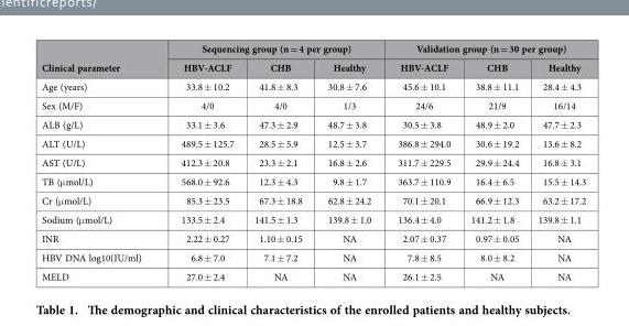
<table><thead><tr><td rowspan="2">Clinical parameter</td><td colspan="3">Sequencing group (n = 4 per group)</td><td colspan="3">Validation group (n = 30 per group)</td></tr><tr><td>HBV-ACLF</td><td>CHB</td><td>Healthy</td><td>HBV-ACLF</td><td>CHB</td><td>Healthy</td></tr></thead><tbody><tr><td>Age (years)</td><td>33.8 ± 10.2</td><td>41.8 ± 8.3</td><td>30.8 ± 7.6</td><td>45.6 ± 10.1</td><td>38.8 ± 11.1</td><td>28.4 ± 4.3</td></tr><tr><td>Sex (M/F)</td><td>4/0</td><td>4/0</td><td>1/3</td><td>24/6</td><td>21/9</td><td>16/14</td></tr><tr><td>ALB (g/L)</td><td>33.1 ± 3.6</td><td>47.3 ± 2.9</td><td>48.7 ± 3.8</td><td>30.5 ± 3.8</td><td>48.9 ± 2.0</td><td>47.7 ± 2.3</td></tr><tr><td>ALT (U/L)</td><td>489.5 ± 125.7</td><td>28.5 ± 5.9</td><td>12.5 ± 3.7</td><td>386.8 ± 294.0</td><td>30.6 ± 19.2</td><td>13.6 ± 8.2</td></tr><tr><td>AST (U/L)</td><td>412.3 ± 20.8</td><td>23.3 ± 2.1</td><td>16.8 ± 2.6</td><td>311.7 ± 229.5</td><td>29.9 ± 24.4</td><td>16.8 ± 3.1</td></tr><tr><td>TB (μ mol/L)</td><td>568.0 ± 92.6</td><td>12.3 ± 4.3</td><td>9.8 ± 1.7</td><td>363.7 ± 110.9</td><td>16.4 ± 6.5</td><td>15.5 ± 14.3</td></tr><tr><td>Cr (μ mol/L)</td><td>85.3 ± 23.5</td><td>67.3 ± 18.8</td><td>62.8 ± 24.2</td><td>70.1 ± 20.1</td><td>66.9 ± 12.3</td><td>63.2 ± 17.2</td></tr><tr><td>Sodium (μ mol/L)</td><td>133.5 ± 2.4</td><td>141.5 ± 1.3</td><td>139.8 ± 1.0</td><td>136.4 ± 4.0</td><td>141.2 ± 1.8</td><td>139.8 ± 1.1</td></tr><tr><td>INR</td><td>2.22 ± 0.27</td><td>1.10 ± 0.15</td><td>NA</td><td>2.07 ± 0.37</td><td>0.97 ± 0.05</td><td>NA</td></tr><tr><td>HBV DNA log10(IU/ml)</td><td>6.8 ± 7.0</td><td>7.1 ± 7.2</td><td>NA</td><td>7.8 ± 8.5</td><td>8.0 ± 8.2</td><td>NA</td></tr><tr><td>MELD</td><td>27.0 ± 2.4</td><td>NA</td><td>NA</td><td>26.1 ± 2.5</td><td>NA</td><td>NA</td></tr></tbody></table>